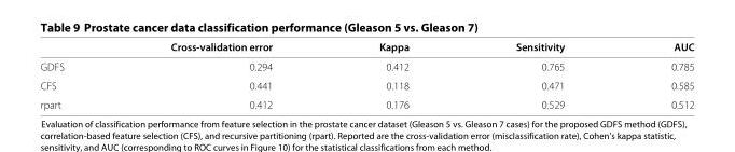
<table><thead><tr><td></td><td>Cross-validation error</td><td>Kappa</td><td>Sensitivity</td><td>AUC</td></tr></thead><tbody><tr><td>GDFS</td><td>0.294</td><td>0.412</td><td>0.765</td><td>0.785</td></tr><tr><td>CFS</td><td>0.441</td><td>0.118</td><td>0.471</td><td>0.585</td></tr><tr><td>rpart</td><td>0.412</td><td>0.176</td><td>0.529</td><td>0.512</td></tr></tbody></table>